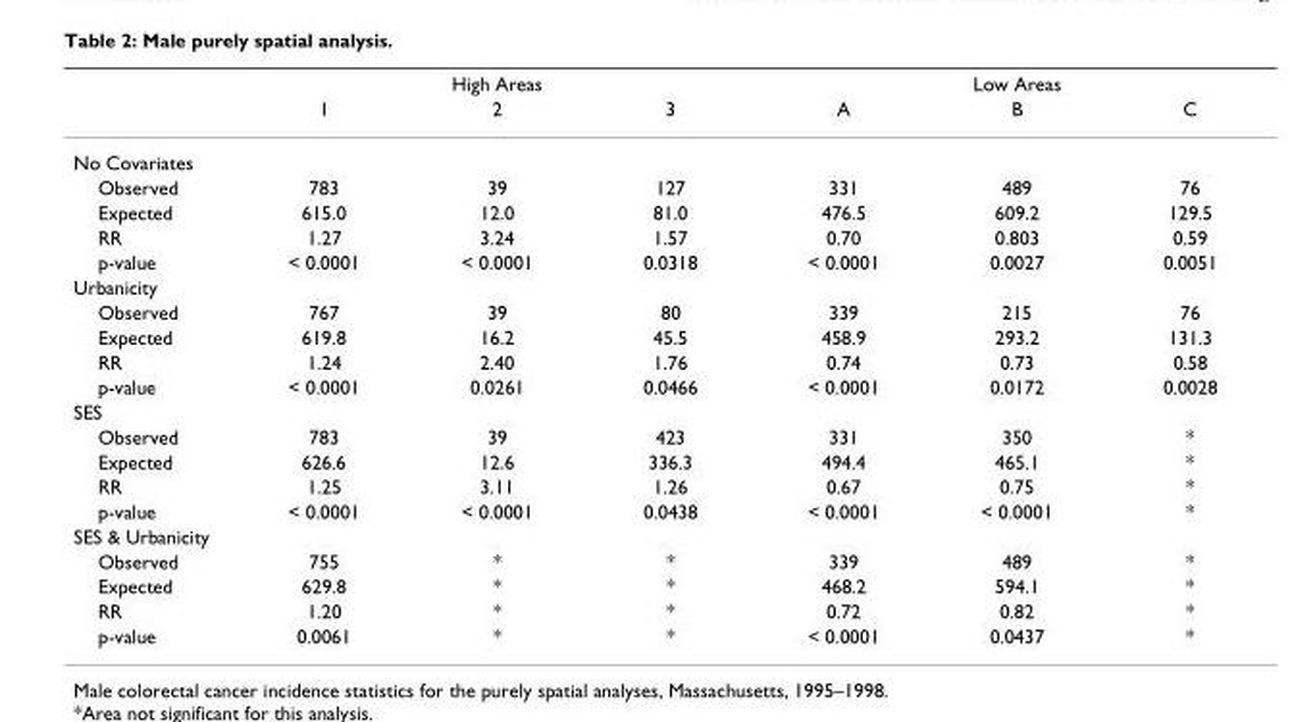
<table><thead><tr><td rowspan="2"></td><td colspan="3">High Areas</td><td colspan="3">Low Areas</td></tr><tr><td>1</td><td>2</td><td>3</td><td>A</td><td>B</td><td>C</td></tr></thead><tbody><tr><td colspan="7">No Covariates</td></tr><tr><td>Observed</td><td>783</td><td>39</td><td>127</td><td>331</td><td>489</td><td>76</td></tr><tr><td>Expected</td><td>615.0</td><td>12.0</td><td>81.0</td><td>476.5</td><td>609.2</td><td>129.5</td></tr><tr><td>RR</td><td>1.27</td><td>3.24</td><td>1.57</td><td>0.70</td><td>0.803</td><td>0.59</td></tr><tr><td>p-value</td><td>&lt; 0.0001</td><td>&lt; 0.0001</td><td>0.0318</td><td>&lt; 0.0001</td><td>0.0027</td><td>0.0051</td></tr><tr><td colspan="7">Urbanicity</td></tr><tr><td>Observed</td><td>767</td><td>39</td><td>80</td><td>339</td><td>215</td><td>76</td></tr><tr><td>Expected</td><td>619.8</td><td>16.2</td><td>45.5</td><td>458.9</td><td>293.2</td><td>131.3</td></tr><tr><td>RR</td><td>1.24</td><td>2.40</td><td>1.76</td><td>0.74</td><td>0.73</td><td>0.58</td></tr><tr><td>p-value</td><td>&lt; 0.0001</td><td>0.0261</td><td>0.0466</td><td>&lt; 0.0001</td><td>0.0172</td><td>0.0028</td></tr><tr><td colspan="7">SES</td></tr><tr><td>Observed</td><td>783</td><td>39</td><td>423</td><td>331</td><td>350</td><td>*</td></tr><tr><td>Expected</td><td>626.6</td><td>12.6</td><td>336.3</td><td>494.4</td><td>465.1</td><td>*</td></tr><tr><td>RR</td><td>1.25</td><td>3.11</td><td>1.26</td><td>0.67</td><td>0.75</td><td>*</td></tr><tr><td>p-value</td><td>&lt; 0.0001</td><td>&lt; 0.0001</td><td>0.0438</td><td>&lt; 0.0001</td><td>&lt; 0.0001</td><td>*</td></tr><tr><td colspan="7">SES &amp; Urbanicity</td></tr><tr><td>Observed</td><td>755</td><td>*</td><td>*</td><td>339</td><td>489</td><td>*</td></tr><tr><td>Expected</td><td>629.8</td><td>*</td><td>*</td><td>468.2</td><td>594.1</td><td>*</td></tr><tr><td>RR</td><td>1.20</td><td>*</td><td>*</td><td>0.72</td><td>0.82</td><td>*</td></tr><tr><td>p-value</td><td>0.0061</td><td>*</td><td>*</td><td>&lt; 0.0001</td><td>0.0437</td><td>*</td></tr></tbody></table>